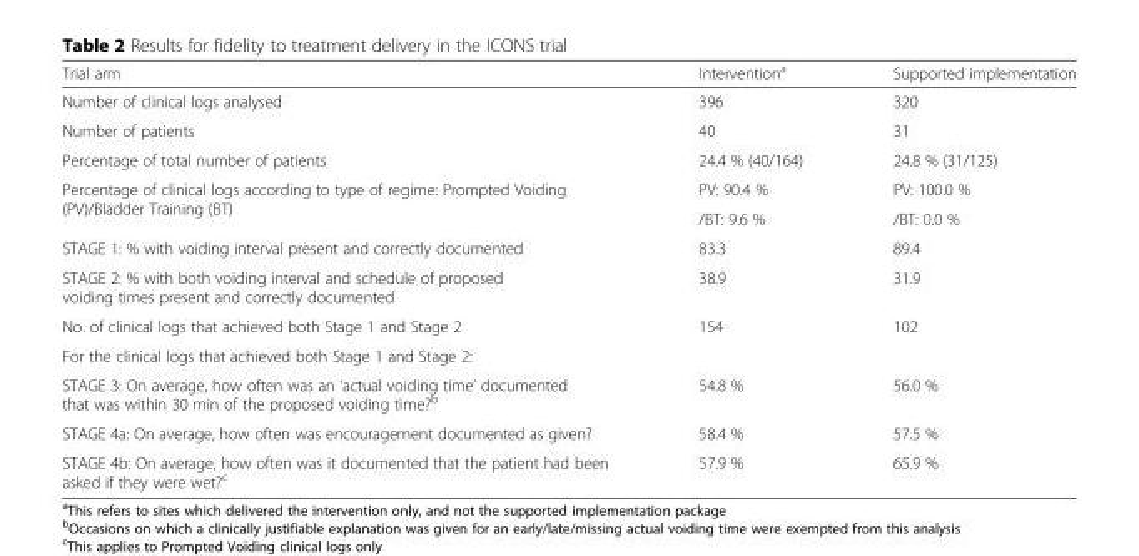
<table><thead><tr><td>Trial arm</td><td>Intervention<sup>a</sup></td><td>Supported implementation</td></tr></thead><tbody><tr><td>Number of clinical logs analysed</td><td>396</td><td>320</td></tr><tr><td>Number of patients</td><td>40</td><td>31</td></tr><tr><td>Percentage of total number of patients</td><td>24.4 % (40/164)</td><td>24.8 % (31/125)</td></tr><tr><td rowspan="2">Percentage of clinical logs according to type of regime: Prompted Voiding (PV)/Bladder Training (BT)</td><td>PV: 90.4 %</td><td>PV: 100.0 %</td></tr><tr><td>/BT: 9.6 %</td><td>/BT: 0.0 %</td></tr><tr><td>STAGE 1: % with voiding interval present and correctly documented</td><td>83.3</td><td>89.4</td></tr><tr><td>STAGE 2: % with both voiding interval and schedule of proposed voiding times present and correctly documented</td><td>38.9</td><td>31.9</td></tr><tr><td>No. of clinical logs that achieved both Stage 1 and Stage 2</td><td>154</td><td>102</td></tr><tr><td colspan="3">For the clinical logs that achieved both Stage 1 and Stage 2:</td></tr><tr><td>STAGE 3: On average, how often was an ‘actual voiding time’ documented that was within 30 min of the proposed voiding time?<sup>b</sup></td><td>54.8 %</td><td>56.0 %</td></tr><tr><td>STAGE 4a: On average, how often was encouragement documented as given?</td><td>58.4 %</td><td>57.5 %</td></tr><tr><td>STAGE 4b: On average, how often was it documented that the patient had been asked if they were wet?<sup>c</sup></td><td>57.9 %</td><td>65.9 %</td></tr></tbody></table>